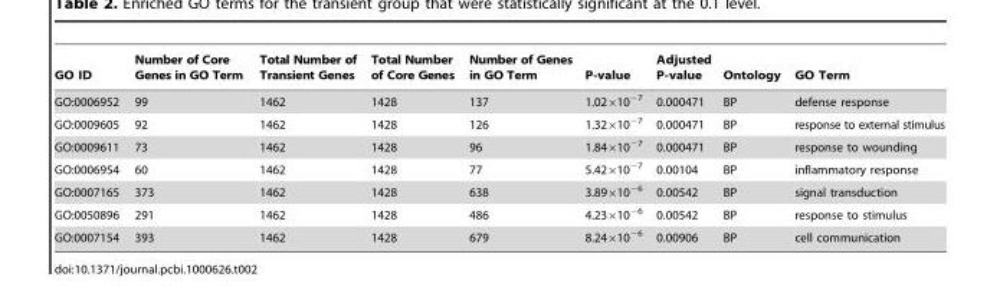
<table><thead><tr><td>GO ID</td><td>Number of Core Genes in GO Term</td><td>Total Number of Transient Genes</td><td>Total Number of Core Genes</td><td>Number of Genes in GO Term</td><td>P-value</td><td>Adjusted P-value</td><td>Ontology</td><td>GO Term</td></tr></thead><tbody><tr><td>GO:0006952</td><td>99</td><td>1462</td><td>1428</td><td>137</td><td>1.02×10<sup>−7</sup></td><td>0.000471</td><td>BP</td><td>defense response</td></tr><tr><td>GO:0009605</td><td>92</td><td>1462</td><td>1428</td><td>126</td><td>1.32×10<sup>−7</sup></td><td>0.000471</td><td>BP</td><td>response to external stimulus</td></tr><tr><td>GO:0009611</td><td>73</td><td>1462</td><td>1428</td><td>96</td><td>1.84×10<sup>−7</sup></td><td>0.000471</td><td>BP</td><td>response to wounding</td></tr><tr><td>GO:0006954</td><td>60</td><td>1462</td><td>1428</td><td>77</td><td>5.42×10<sup>−7</sup></td><td>0.00104</td><td>BP</td><td>inflammatory response</td></tr><tr><td>GO:0007165</td><td>373</td><td>1462</td><td>1428</td><td>638</td><td>3.89×10<sup>−6</sup></td><td>0.00542</td><td>BP</td><td>signal transduction</td></tr><tr><td>GO:0050896</td><td>291</td><td>1462</td><td>1428</td><td>486</td><td>4.23×10<sup>−6</sup></td><td>0.00542</td><td>BP</td><td>response to stimulus</td></tr><tr><td>GO:0007154</td><td>393</td><td>1462</td><td>1428</td><td>679</td><td>8.24×10<sup>−6</sup></td><td>0.00906</td><td>BP</td><td>cell communication</td></tr></tbody></table>